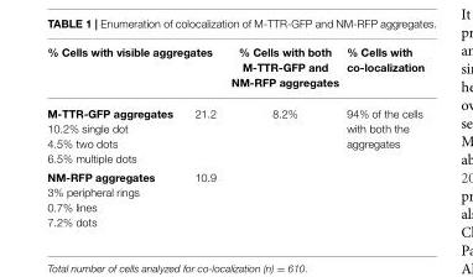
<table><thead><tr><td colspan="2">% Cells with visible aggregates</td><td rowspan="2">% Cells with both M-TTR-GFP and NM-RFP aggregates 8.2%</td><td rowspan="2">% Cells with co-localization 94% of the cells with both the aggregates</td></tr><tr><td>M-TTR-GFP aggregates 10.2% single dot 4.5% two dots 6.5% multiple dots</td><td>21.2</td></tr></thead><tbody><tr><td>NM-RFP aggregates 3% peripheral rings 0.7% lines 7.2% dots</td><td>10.9</td><td></td><td></td></tr></tbody></table>